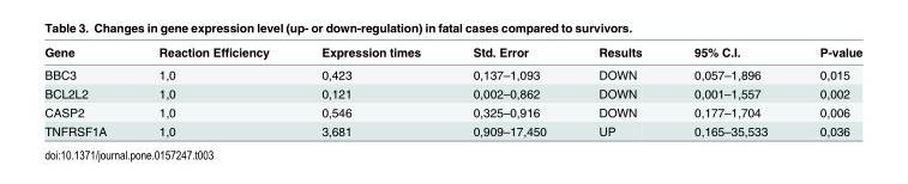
<table><thead><tr><td>Gene</td><td>Reaction Efficiency</td><td>Expression times</td><td>Std. Error</td><td>Results</td><td>95% C.I.</td><td>P-value</td></tr></thead><tbody><tr><td>BBC3</td><td>1,0</td><td>0,423</td><td>0,137–1,093</td><td>DOWN</td><td>0,057–1,896</td><td>0,015</td></tr><tr><td>BCL2L2</td><td>1,0</td><td>0,121</td><td>0,002–0,862</td><td>DOWN</td><td>0,001–1,557</td><td>0,002</td></tr><tr><td>CASP2</td><td>1,0</td><td>0,546</td><td>0,325–0,916</td><td>DOWN</td><td>0,177–1,704</td><td>0,006</td></tr><tr><td>TNFRSF1A</td><td>1,0</td><td>3,681</td><td>0,909–17,450</td><td>UP</td><td>0,165–35,533</td><td>0,036</td></tr></tbody></table>